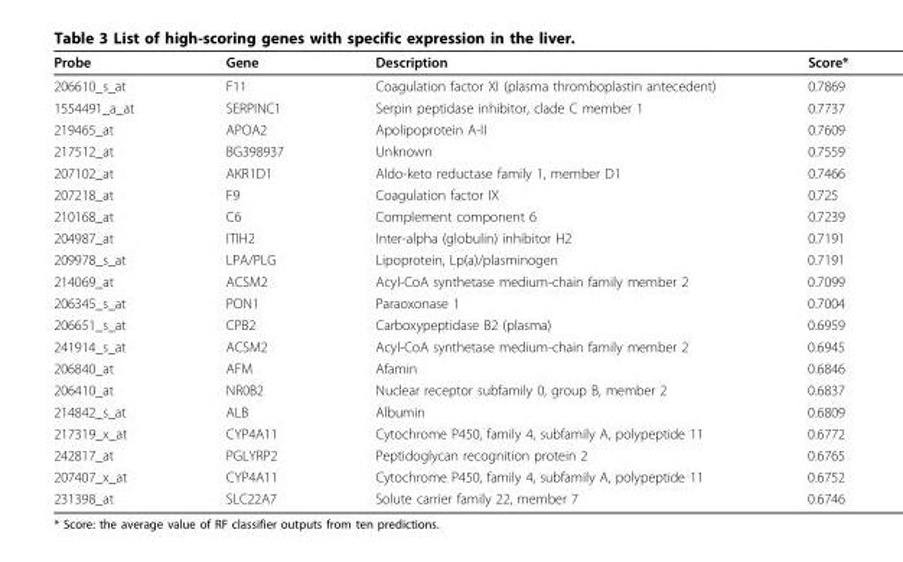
<table><thead><tr><td>Probe</td><td>Gene</td><td>Description</td><td>Score*</td></tr></thead><tbody><tr><td>206610_s_at</td><td>F11</td><td>Coagulation factor XI (plasma thromboplastin antecedent)</td><td>0.7869</td></tr><tr><td>1554491_a_at</td><td>SERPINC1</td><td>Serpin peptidase inhibitor, clade C member 1</td><td>0.7737</td></tr><tr><td>219465_at</td><td>APOA2</td><td>Apolipoprotein A-II</td><td>0.7609</td></tr><tr><td>217512_at</td><td>BG398937</td><td>Unknown</td><td>0.7559</td></tr><tr><td>207102_at</td><td>AKR1D1</td><td>Aldo-keto reductase family 1, member D1</td><td>0.7466</td></tr><tr><td>207218_at</td><td>F9</td><td>Coagulation factor IX</td><td>0.725</td></tr><tr><td>210168_at</td><td>C6</td><td>Complement component 6</td><td>0.7239</td></tr><tr><td>204987_at</td><td>ITIH2</td><td>Inter-alpha (globulin) inhibitor H2</td><td>0.7191</td></tr><tr><td>209978_s_at</td><td>LPA/PLG</td><td>Lipoprotein, Lp(a)/plasminogen</td><td>0.7191</td></tr><tr><td>214069_at</td><td>ACSM2</td><td>Acyl-CoA synthetase medium-chain family member 2</td><td>0.7099</td></tr><tr><td>206345_s_at</td><td>PON1</td><td>Paraoxonase 1</td><td>0.7004</td></tr><tr><td>206651_s_at</td><td>CPB2</td><td>Carboxypeptidase B2 (plasma)</td><td>0.6959</td></tr><tr><td>241914_s_at</td><td>ACSM2</td><td>Acyl-CoA synthetase medium-chain family member 2</td><td>0.6945</td></tr><tr><td>206840_at</td><td>AFM</td><td>Afamin</td><td>0.6846</td></tr><tr><td>206410_at</td><td>NR0B2</td><td>Nuclear receptor subfamily 0, group B, member 2</td><td>0.6837</td></tr><tr><td>214842_s_at</td><td>ALB</td><td>Albumin</td><td>0.6809</td></tr><tr><td>217319_x_at</td><td>CYP4A11</td><td>Cytochrome P450, family 4, subfamily A, polypeptide 11</td><td>0.6772</td></tr><tr><td>242817_at</td><td>PGLYRP2</td><td>Peptidoglycan recognition protein 2</td><td>0.6765</td></tr><tr><td>207407_x_at</td><td>CYP4A11</td><td>Cytochrome P450, family 4, subfamily A, polypeptide 11</td><td>0.6752</td></tr><tr><td>231398_at</td><td>SLC22A7</td><td>Solute carrier family 22, member 7</td><td>0.6746</td></tr></tbody></table>